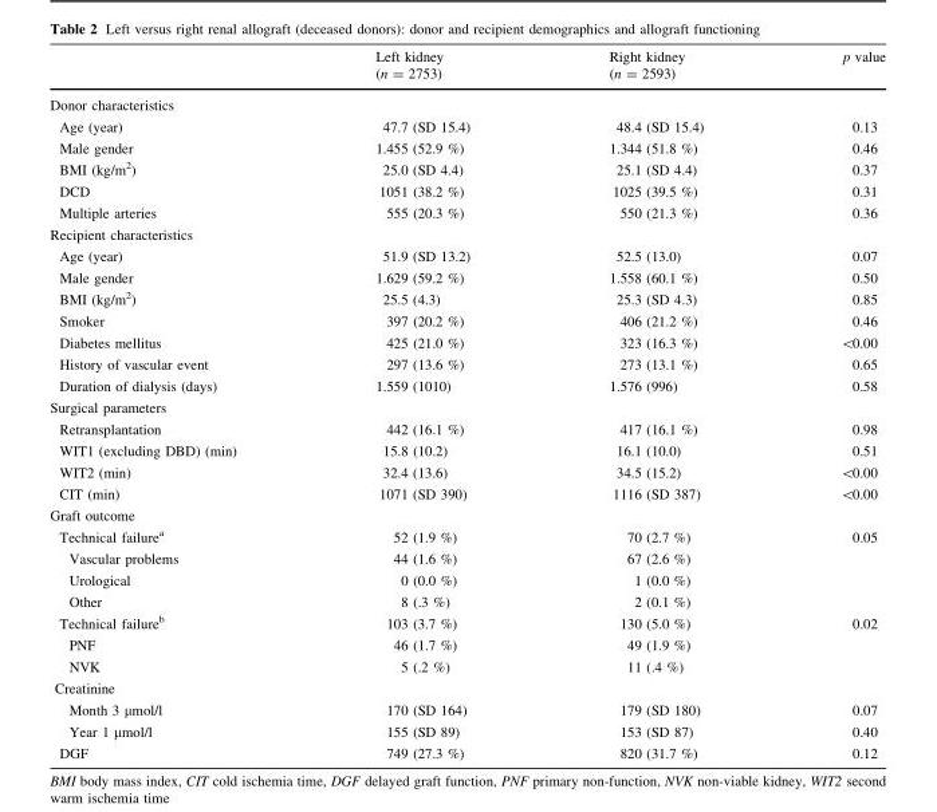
<table><thead><tr><td></td><td>Left kidney (n = 2753)</td><td>Right kidney (n = 2593)</td><td>p value</td></tr></thead><tbody><tr><td colspan="4">Donor characteristics</td></tr><tr><td>Age (year)</td><td>47.7 (SD 15.4)</td><td>48.4 (SD 15.4)</td><td>0.13</td></tr><tr><td>Male gender</td><td>1.455 (52.9 %)</td><td>1.344 (51.8 %)</td><td>0.46</td></tr><tr><td>BMI (kg/m<sup>2</sup>)</td><td>25.0 (SD 4.4)</td><td>25.1 (SD 4.4)</td><td>0.37</td></tr><tr><td>DCD</td><td>1051 (38.2 %)</td><td>1025 (39.5 %)</td><td>0.31</td></tr><tr><td>Multiple arteries</td><td>555 (20.3 %)</td><td>550 (21.3 %)</td><td>0.36</td></tr><tr><td colspan="4">Recipient characteristics</td></tr><tr><td>Age (year)</td><td>51.9 (SD 13.2)</td><td>52.5 (13.0)</td><td>0.07</td></tr><tr><td>Male gender</td><td>1.629 (59.2 %)</td><td>1.558 (60.1 %)</td><td>0.50</td></tr><tr><td>BMI (kg/m<sup>2</sup>)</td><td>25.5 (4.3)</td><td>25.3 (SD 4.3)</td><td>0.85</td></tr><tr><td>Smoker</td><td>397 (20.2 %)</td><td>406 (21.2 %)</td><td>0.46</td></tr><tr><td>Diabetes mellitus</td><td>425 (21.0 %)</td><td>323 (16.3 %)</td><td>&lt;0.00</td></tr><tr><td>History of vascular event</td><td>297 (13.6 %)</td><td>273 (13.1 %)</td><td>0.65</td></tr><tr><td>Duration of dialysis (days)</td><td>1.559 (1010)</td><td>1.576 (996)</td><td>0.58</td></tr><tr><td colspan="4">Surgical parameters</td></tr><tr><td>Retransplantation</td><td>442 (16.1 %)</td><td>417 (16.1 %)</td><td>0.98</td></tr><tr><td>WIT1 (excluding DBD) (min)</td><td>15.8 (10.2)</td><td>16.1 (10.0)</td><td>0.51</td></tr><tr><td>WIT2 (min)</td><td>32.4 (13.6)</td><td>34.5 (15.2)</td><td>&lt;0.00</td></tr><tr><td>CIT (min)</td><td>1071 (SD 390)</td><td>1116 (SD 387)</td><td>&lt;0.00</td></tr><tr><td colspan="4">Graft outcome</td></tr><tr><td>Technical failure<sup>a</sup></td><td>52 (1.9 %)</td><td>70 (2.7 %)</td><td>0.05</td></tr><tr><td>Vascular problems</td><td>44 (1.6 %)</td><td>67 (2.6 %)</td><td></td></tr><tr><td>Urological</td><td>0 (0.0 %)</td><td>1 (0.0 %)</td><td></td></tr><tr><td>Other</td><td>8 (.3 %)</td><td>2 (0.1 %)</td><td></td></tr><tr><td>Technical failure<sup>b</sup></td><td>103 (3.7 %)</td><td>130 (5.0 %)</td><td>0.02</td></tr><tr><td>PNF</td><td>46 (1.7 %)</td><td>49 (1.9 %)</td><td></td></tr><tr><td>NVK</td><td>5 (.2 %)</td><td>11 (.4 %)</td><td></td></tr><tr><td colspan="4">Creatinine</td></tr><tr><td>Month 3 µmol/l</td><td>170 (SD 164)</td><td>179 (SD 180)</td><td>0.07</td></tr><tr><td>Year 1 µmol/l</td><td>155 (SD 89)</td><td>153 (SD 87)</td><td>0.40</td></tr><tr><td>DGF</td><td>749 (27.3 %)</td><td>820 (31.7 %)</td><td>0.12</td></tr></tbody></table>